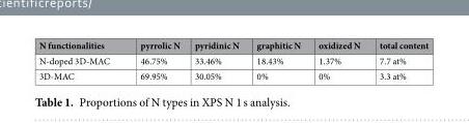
<table><thead><tr><td>N functionalities</td><td>pyrrolic N</td><td>pyridinic N</td><td>graphitic N</td><td>oxidized N</td><td>total content</td></tr></thead><tbody><tr><td>N-doped 3D-MAC</td><td>46.75%</td><td>33.46%</td><td>18.43%</td><td>1.37%</td><td>7.7 at%</td></tr><tr><td>3D-MAC</td><td>69.95%</td><td>30.05%</td><td>0%</td><td>0%</td><td>3.3 at%</td></tr></tbody></table>